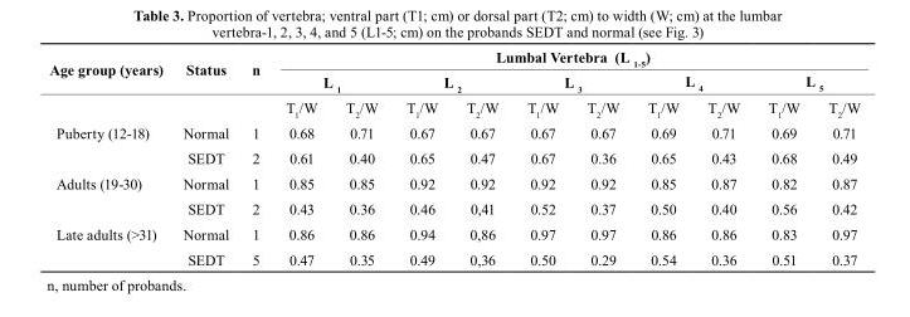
<table><thead><tr><td rowspan="2">Age group (years)</td><td rowspan="2">Status</td><td rowspan="2">n</td><td colspan="10">Lumbal Vertebra (L <sub>1-5</sub>)</td></tr><tr><td colspan="2">L <sub>1</sub></td><td colspan="2">L <sub>2</sub></td><td colspan="2">L <sub>3</sub></td><td colspan="2">L <sub>4</sub></td><td colspan="2">L <sub>5</sub></td></tr><tr><td colspan="3"></td><td>T<sub>1</sub>/W</td><td>T<sub>2</sub>/W</td><td>T<sub>1</sub>/W</td><td>T<sub>2</sub>/W</td><td>T<sub>1</sub>/W</td><td>T<sub>2</sub>/W</td><td>T<sub>1</sub>/W</td><td>T<sub>2</sub>/W</td><td>T<sub>1</sub>/W</td><td>T<sub>2</sub>/W</td></tr></thead><tbody><tr><td rowspan="2">Puberty (12-18)</td><td>Normal</td><td>1</td><td>0.68</td><td>0.71</td><td>0.67</td><td>0.67</td><td>0.67</td><td>0.67</td><td>0.69</td><td>0.71</td><td>0.69</td><td>0.71</td></tr><tr><td>SEDT</td><td>2</td><td>0.61</td><td>0.40</td><td>0.65</td><td>0.47</td><td>0.67</td><td>0.36</td><td>0.65</td><td>0.43</td><td>0.68</td><td>0.49</td></tr><tr><td rowspan="2">Adults (19-30)</td><td>Normal</td><td>1</td><td>0.85</td><td>0.85</td><td>0.92</td><td>0.92</td><td>0.92</td><td>0.92</td><td>0.85</td><td>0.87</td><td>0.82</td><td>0.87</td></tr><tr><td>SEDT</td><td>2</td><td>0.43</td><td>0.36</td><td>0.46</td><td>0,41</td><td>0.52</td><td>0.37</td><td>0.50</td><td>0.40</td><td>0.56</td><td>0.42</td></tr><tr><td rowspan="2">Late adults (&gt;31)</td><td>Normal</td><td>1</td><td>0.86</td><td>0.86</td><td>0.94</td><td>0,86</td><td>0.97</td><td>0.97</td><td>0.86</td><td>0.86</td><td>0.83</td><td>0.97</td></tr><tr><td>SEDT</td><td>5</td><td>0.47</td><td>0.35</td><td>0.49</td><td>0,36</td><td>0.50</td><td>0.29</td><td>0.54</td><td>0.36</td><td>0.51</td><td>0.37</td></tr></tbody></table>